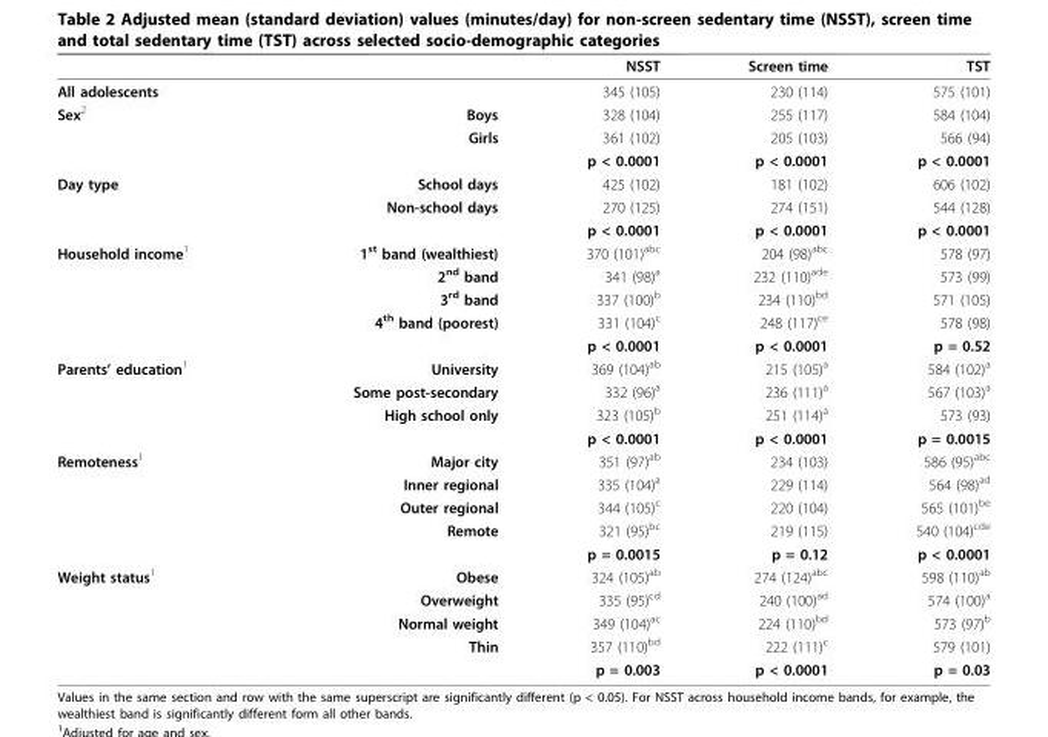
<table><thead><tr><td></td><td></td><td>NSST</td><td>Screen time</td><td>TST</td></tr></thead><tbody><tr><td>All adolescents</td><td></td><td>345 (105)</td><td>230 (114)</td><td>575 (101)</td></tr><tr><td rowspan="3">Sex<sup>2</sup></td><td>Boys</td><td>328 (104)</td><td>255 (117)</td><td>584 (104)</td></tr><tr><td>Girls</td><td>361 (102)</td><td>205 (103)</td><td>566 (94)</td></tr><tr><td></td><td>p &lt; 0.0001</td><td>p &lt; 0.0001</td><td>p &lt; 0.0001</td></tr><tr><td rowspan="3">Day type</td><td>School days</td><td>425 (102)</td><td>181 (102)</td><td>606 (102)</td></tr><tr><td>Non-school days</td><td>270 (125)</td><td>274 (151)</td><td>544 (128)</td></tr><tr><td></td><td>p &lt; 0.0001</td><td>p &lt; 0.0001</td><td>p &lt; 0.0001</td></tr><tr><td rowspan="5">Household income<sup>1</sup></td><td>1<sup>st</sup> band (wealthiest)</td><td>370 (101)<sup>abc</sup></td><td>204 (98)<sup>abc</sup></td><td>578 (97)</td></tr><tr><td>2<sup>nd</sup> band</td><td>341 (98)<sup>a</sup></td><td>232 (110)<sup>ade</sup></td><td>573 (99)</td></tr><tr><td>3<sup>rd</sup> band</td><td>337 (100)<sup>b</sup></td><td>234 (110)<sup>bd</sup></td><td>571 (105)</td></tr><tr><td>4<sup>th</sup> band (poorest)</td><td>331 (104)<sup>c</sup></td><td>248 (117)<sup>ce</sup></td><td>578 (98)</td></tr><tr><td></td><td>p &lt; 0.0001</td><td>p &lt; 0.0001</td><td>p = 0.52</td></tr><tr><td rowspan="4">Parents’ education<sup>1</sup></td><td>University</td><td>369 (104)<sup>ab</sup></td><td>215 (105)<sup>a</sup></td><td>584 (102)<sup>a</sup></td></tr><tr><td>Some post-secondary</td><td>332 (96)<sup>a</sup></td><td>236 (111)<sup>a</sup></td><td>567 (103)<sup>a</sup></td></tr><tr><td>High school only</td><td>323 (105)<sup>b</sup></td><td>251 (114)<sup>a</sup></td><td>573 (93)</td></tr><tr><td></td><td>p &lt; 0.0001</td><td>p &lt; 0.0001</td><td>p = 0.0015</td></tr><tr><td rowspan="5">Remoteness<sup>1</sup></td><td>Major city</td><td>351 (97)<sup>ab</sup></td><td>234 (103)</td><td>586 (95)<sup>abc</sup></td></tr><tr><td>Inner regional</td><td>335 (104)<sup>a</sup></td><td>229 (114)</td><td>564 (98)<sup>ad</sup></td></tr><tr><td>Outer regional</td><td>344 (105)<sup>c</sup></td><td>220 (104)</td><td>565 (101)<sup>be</sup></td></tr><tr><td>Remote</td><td>321 (95)<sup>bc</sup></td><td>219 (115)</td><td>540 (104)<sup>cde</sup></td></tr><tr><td></td><td>p = 0.0015</td><td>p = 0.12</td><td>p &lt; 0.0001</td></tr><tr><td rowspan="5">Weight status<sup>1</sup></td><td>Obese</td><td>324 (105)<sup>ab</sup></td><td>274 (124)<sup>abc</sup></td><td>598 (110)<sup>ab</sup></td></tr><tr><td>Overweight</td><td>335 (95)<sup>cd</sup></td><td>240 (100)<sup>ad</sup></td><td>574 (100)<sup>a</sup></td></tr><tr><td>Normal weight</td><td>349 (104)<sup>ac</sup></td><td>224 (110)<sup>bd</sup></td><td>573 (97)<sup>b</sup></td></tr><tr><td>Thin</td><td>357 (110)<sup>bd</sup></td><td>222 (111)<sup>c</sup></td><td>579 (101)</td></tr><tr><td></td><td>p = 0.003</td><td>p &lt; 0.0001</td><td>p = 0.03</td></tr></tbody></table>